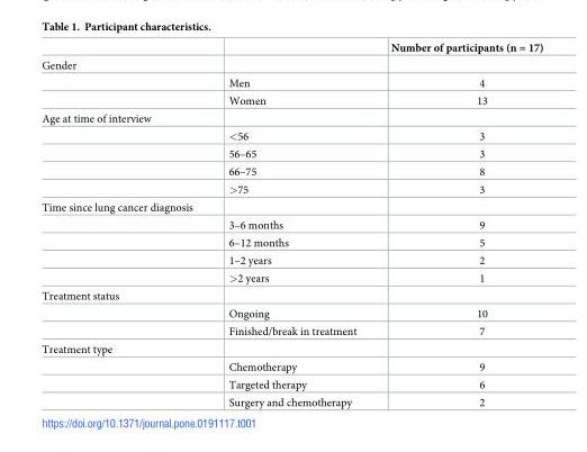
<table><thead><tr><td></td><td></td><td>Number of participants (n = 17)</td></tr></thead><tbody><tr><td colspan="3">Gender</td></tr><tr><td></td><td>Men</td><td>4</td></tr><tr><td></td><td>Women</td><td>13</td></tr><tr><td colspan="3">Age at time of interview</td></tr><tr><td></td><td>&lt;56</td><td>3</td></tr><tr><td></td><td>56–65</td><td>3</td></tr><tr><td></td><td>66–75</td><td>8</td></tr><tr><td></td><td>&gt;75</td><td>3</td></tr><tr><td colspan="3">Time since lung cancer diagnosis</td></tr><tr><td></td><td>3–6 months</td><td>9</td></tr><tr><td></td><td>6–12 months</td><td>5</td></tr><tr><td></td><td>1–2 years</td><td>2</td></tr><tr><td></td><td>&gt;2 years</td><td>1</td></tr><tr><td colspan="3">Treatment status</td></tr><tr><td></td><td>Ongoing</td><td>10</td></tr><tr><td></td><td>Finished/break in treatment</td><td>7</td></tr><tr><td colspan="3">Treatment type</td></tr><tr><td></td><td>Chemotherapy</td><td>9</td></tr><tr><td></td><td>Targeted therapy</td><td>6</td></tr><tr><td></td><td>Surgery and chemotherapy</td><td>2</td></tr></tbody></table>